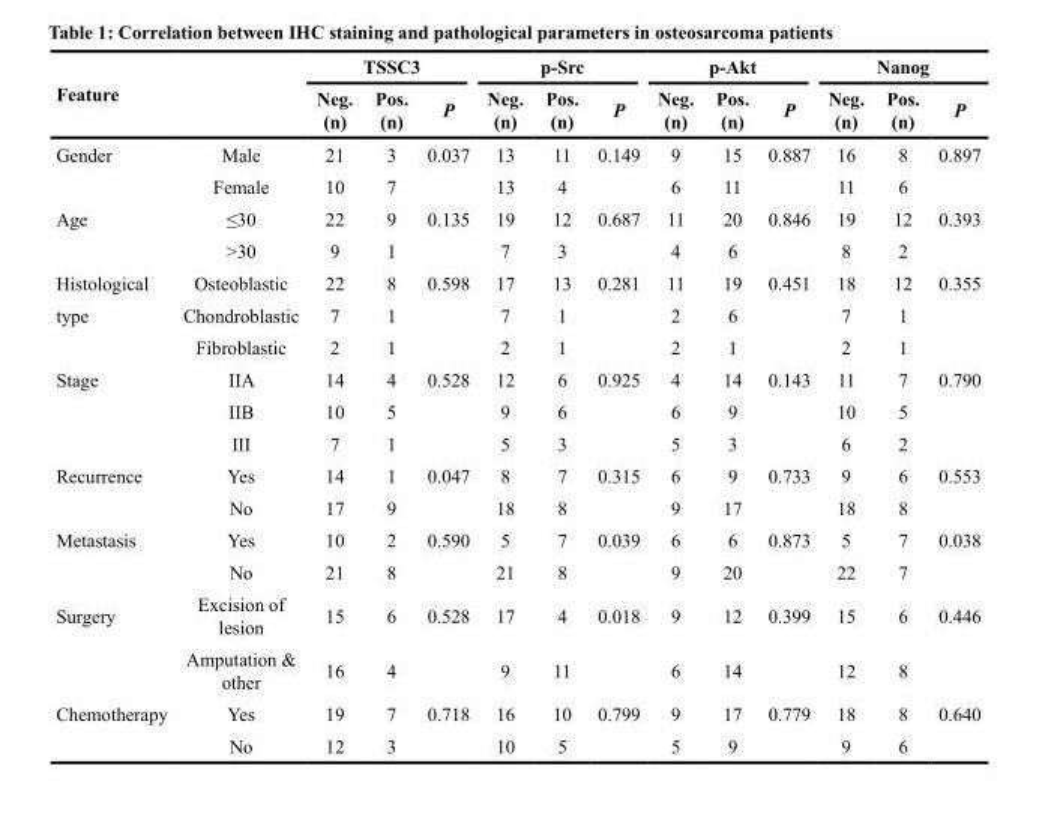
<table><thead><tr><td rowspan="2">Feature</td><td rowspan="2"></td><td colspan="3">TSSC3</td><td colspan="3">p-Src</td><td colspan="3">p-Akt</td><td colspan="3">Nanog</td></tr><tr><td>Neg. (n)</td><td>Pos. (n)</td><td>P</td><td>Neg. (n)</td><td>Pos. (n)</td><td>P</td><td>Neg. (n)</td><td>Pos. (n)</td><td>P</td><td>Neg. (n)</td><td>Pos. (n)</td><td>P</td></tr></thead><tbody><tr><td rowspan="2">Gender</td><td>Male</td><td>21</td><td>3</td><td>0.037</td><td>13</td><td>11</td><td>0.149</td><td>9</td><td>15</td><td>0.887</td><td>16</td><td>8</td><td>0.897</td></tr><tr><td>Female</td><td>10</td><td>7</td><td></td><td>13</td><td>4</td><td></td><td>6</td><td>11</td><td></td><td>11</td><td>6</td><td></td></tr><tr><td rowspan="2">Age</td><td>≤30</td><td>22</td><td>9</td><td>0.135</td><td>19</td><td>12</td><td>0.687</td><td>11</td><td>20</td><td>0.846</td><td>19</td><td>12</td><td>0.393</td></tr><tr><td>&gt;30</td><td>9</td><td>1</td><td></td><td>7</td><td>3</td><td></td><td>4</td><td>6</td><td></td><td>8</td><td>2</td><td></td></tr><tr><td>Histological</td><td>Osteoblastic</td><td>22</td><td>8</td><td>0.598</td><td>17</td><td>13</td><td>0.281</td><td>11</td><td>19</td><td>0.451</td><td>18</td><td>12</td><td>0.355</td></tr><tr><td rowspan="2">type</td><td>Chondroblastic</td><td>7</td><td>1</td><td></td><td>7</td><td>1</td><td></td><td>2</td><td>6</td><td></td><td>7</td><td>1</td><td></td></tr><tr><td>Fibroblastic</td><td>2</td><td>1</td><td></td><td>2</td><td>1</td><td></td><td>2</td><td>1</td><td></td><td>2</td><td>1</td><td></td></tr><tr><td rowspan="3">Stage</td><td>IIA</td><td>14</td><td>4</td><td>0.528</td><td>12</td><td>6</td><td>0.925</td><td>4</td><td>14</td><td>0.143</td><td>11</td><td>7</td><td>0.790</td></tr><tr><td>IIB</td><td>10</td><td>5</td><td></td><td>9</td><td>6</td><td></td><td>6</td><td>9</td><td></td><td>10</td><td>5</td><td></td></tr><tr><td>III</td><td>7</td><td>1</td><td></td><td>5</td><td>3</td><td></td><td>5</td><td>3</td><td></td><td>6</td><td>2</td><td></td></tr><tr><td rowspan="2">Recurrence</td><td>Yes</td><td>14</td><td>1</td><td>0.047</td><td>8</td><td>7</td><td>0.315</td><td>6</td><td>9</td><td>0.733</td><td>9</td><td>6</td><td>0.553</td></tr><tr><td>No</td><td>17</td><td>9</td><td></td><td>18</td><td>8</td><td></td><td>9</td><td>17</td><td></td><td>18</td><td>8</td><td></td></tr><tr><td rowspan="2">Metastasis</td><td>Yes</td><td>10</td><td>2</td><td>0.590</td><td>5</td><td>7</td><td>0.039</td><td>6</td><td>6</td><td>0.873</td><td>5</td><td>7</td><td>0.038</td></tr><tr><td>No</td><td>21</td><td>8</td><td></td><td>21</td><td>8</td><td></td><td>9</td><td>20</td><td></td><td>22</td><td>7</td><td></td></tr><tr><td rowspan="2">Surgery</td><td>Excision of lesion</td><td>15</td><td>6</td><td>0.528</td><td>17</td><td>4</td><td>0.018</td><td>9</td><td>12</td><td>0.399</td><td>15</td><td>6</td><td>0.446</td></tr><tr><td>Amputation &amp; other</td><td>16</td><td>4</td><td></td><td>9</td><td>11</td><td></td><td>6</td><td>14</td><td></td><td>12</td><td>8</td><td></td></tr><tr><td rowspan="2">Chemotherapy</td><td>Yes</td><td>19</td><td>7</td><td>0.718</td><td>16</td><td>10</td><td>0.799</td><td>9</td><td>17</td><td>0.779</td><td>18</td><td>8</td><td>0.640</td></tr><tr><td>No</td><td>12</td><td>3</td><td></td><td>10</td><td>5</td><td></td><td>5</td><td>9</td><td></td><td>9</td><td>6</td><td></td></tr></tbody></table>